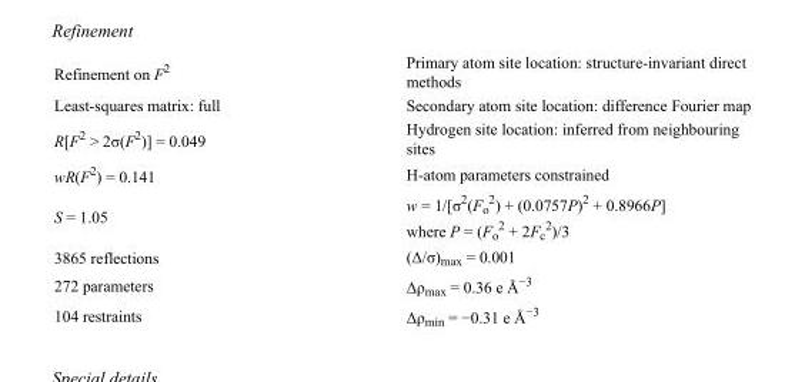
<table><tbody><tr><td>Refinement on F<sup>2</sup></td><td>Primary atom site location: structure-invariant direct methods</td></tr><tr><td>Least-squares matrix: full</td><td>Secondary atom site location: difference Fourier map</td></tr><tr><td>R[F<sup>2</sup> &gt; 2σ(F<sup>2</sup>)] = 0.049</td><td>Hydrogen site location: inferred from neighbouring sites</td></tr><tr><td>wR(F<sup>2</sup>) = 0.141</td><td>H-atom parameters constrained</td></tr><tr><td>S = 1.05</td><td>w = 1/[σ<sup>2</sup>(F<sub>o</sub> <sup>2</sup>) + (0.0757P)<sup>2</sup> + 0.8966P] where P = (F<sub>o</sub> <sup>2</sup> + 2F<sub>c</sub> <sup>2</sup>)/3</td></tr><tr><td>3865 reflections</td><td>(Δ/σ)<sub>max</sub> = 0.001</td></tr><tr><td>272 parameters</td><td>Δρ<sub>max</sub> = 0.36 e Å<sup>−3</sup></td></tr><tr><td>104 restraints</td><td>Δρ<sub>min</sub> = −0.31 e Å<sup>−3</sup></td></tr></tbody></table>